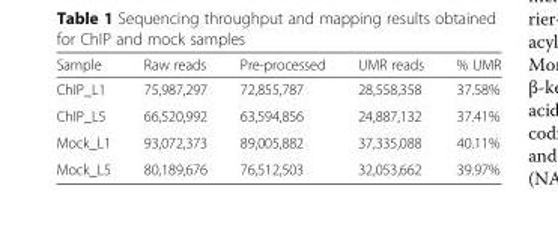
<table><thead><tr><td>Sample</td><td>Raw reads</td><td>Pre-processed</td><td>UMR reads</td><td>% UMR</td></tr></thead><tbody><tr><td>ChIP_L1</td><td>75,987,297</td><td>72,855,787</td><td>28,558,358</td><td>37.58%</td></tr><tr><td>ChIP_L5</td><td>66,520,992</td><td>63,594,856</td><td>24,887,132</td><td>37.41%</td></tr><tr><td>Mock_L1</td><td>93,072,373</td><td>89,005,882</td><td>37,335,088</td><td>40.11%</td></tr><tr><td>Mock_L5</td><td>80,189,676</td><td>76,512,503</td><td>32,053,662</td><td>39.97%</td></tr></tbody></table>